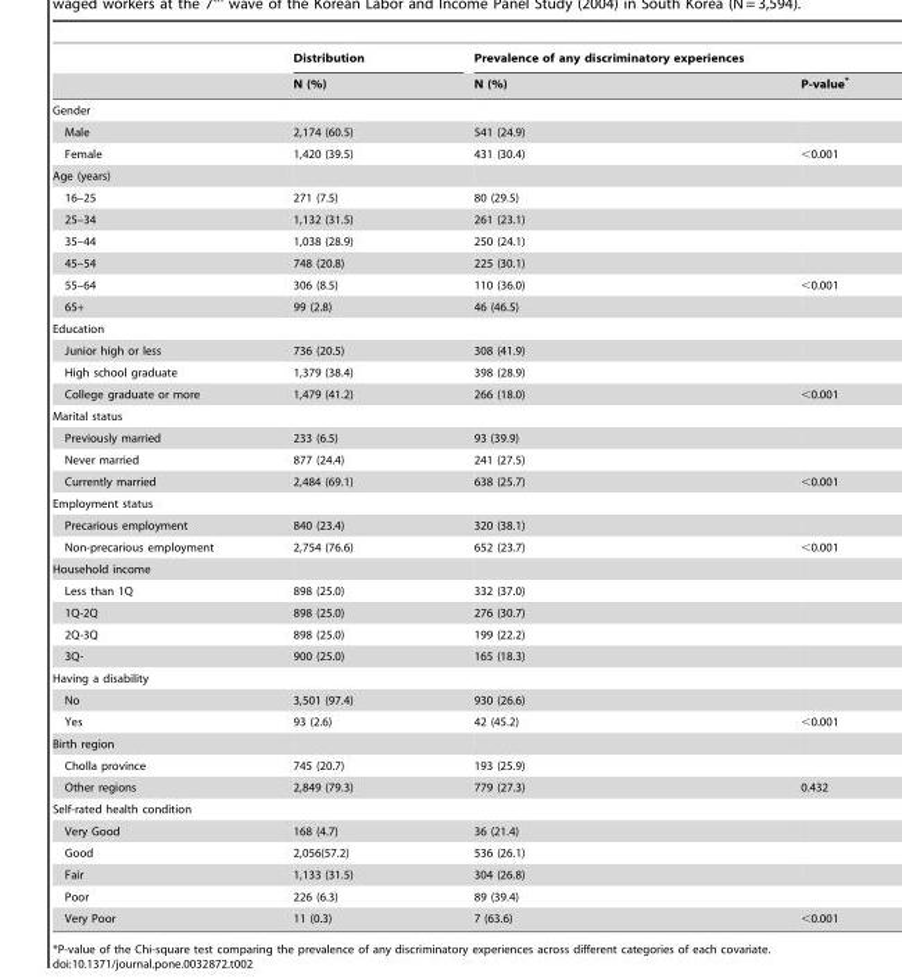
<table><thead><tr><td rowspan="2"></td><td rowspan="2">Distribution N (%)</td><td colspan="2">Prevalence of any discriminatory experiences</td></tr><tr><td>N (%)</td><td>P-value*</td></tr></thead><tbody><tr><td colspan="4">Gender</td></tr><tr><td>Male</td><td>2,174 (60.5)</td><td>541 (24.9)</td><td></td></tr><tr><td>Female</td><td>1,420 (39.5)</td><td>431 (30.4)</td><td>&lt;0.001</td></tr><tr><td colspan="4">Age (years)</td></tr><tr><td>16–25</td><td>271 (7.5)</td><td>80 (29.5)</td><td></td></tr><tr><td>25–34</td><td>1,132 (31.5)</td><td>261 (23.1)</td><td></td></tr><tr><td>35–44</td><td>1,038 (28.9)</td><td>250 (24.1)</td><td></td></tr><tr><td>45–54</td><td>748 (20.8)</td><td>225 (30.1)</td><td></td></tr><tr><td>55–64</td><td>306 (8.5)</td><td>110 (36.0)</td><td>&lt;0.001</td></tr><tr><td>65+</td><td>99 (2.8)</td><td>46 (46.5)</td><td></td></tr><tr><td colspan="4">Education</td></tr><tr><td>Junior high or less</td><td>736 (20.5)</td><td>308 (41.9)</td><td></td></tr><tr><td>High school graduate</td><td>1,379 (38.4)</td><td>398 (28.9)</td><td></td></tr><tr><td>College graduate or more</td><td>1,479 (41.2)</td><td>266 (18.0)</td><td>&lt;0.001</td></tr><tr><td colspan="4">Marital status</td></tr><tr><td>Previously married</td><td>233 (6.5)</td><td>93 (39.9)</td><td></td></tr><tr><td>Never married</td><td>877 (24.4)</td><td>241 (27.5)</td><td></td></tr><tr><td>Currently married</td><td>2,484 (69.1)</td><td>638 (25.7)</td><td>&lt;0.001</td></tr><tr><td colspan="4">Employment status</td></tr><tr><td>Precarious employment</td><td>840 (23.4)</td><td>320 (38.1)</td><td></td></tr><tr><td>Non-precarious employment</td><td>2,754 (76.6)</td><td>652 (23.7)</td><td>&lt;0.001</td></tr><tr><td colspan="4">Household income</td></tr><tr><td>Less than 1Q</td><td>898 (25.0)</td><td>332 (37.0)</td><td></td></tr><tr><td>1Q-2Q</td><td>898 (25.0)</td><td>276 (30.7)</td><td></td></tr><tr><td>2Q-3Q</td><td>898 (25.0)</td><td>199 (22.2)</td><td></td></tr><tr><td>3Q-</td><td>900 (25.0)</td><td>165 (18.3)</td><td></td></tr><tr><td colspan="4">Having a disability</td></tr><tr><td>No</td><td>3,501 (97.4)</td><td>930 (26.6)</td><td></td></tr><tr><td>Yes</td><td>93 (2.6)</td><td>42 (45.2)</td><td>&lt;0.001</td></tr><tr><td colspan="4">Birth region</td></tr><tr><td>Cholla province</td><td>745 (20.7)</td><td>193 (25.9)</td><td></td></tr><tr><td>Other regions</td><td>2,849 (79.3)</td><td>779 (27.3)</td><td>0.432</td></tr><tr><td colspan="4">Self-rated health condition</td></tr><tr><td>Very Good</td><td>168 (4.7)</td><td>36 (21.4)</td><td></td></tr><tr><td>Good</td><td>2,056(57.2)</td><td>536 (26.1)</td><td></td></tr><tr><td>Fair</td><td>1,133 (31.5)</td><td>304 (26.8)</td><td></td></tr><tr><td>Poor</td><td>226 (6.3)</td><td>89 (39.4)</td><td></td></tr><tr><td>Very Poor</td><td>11 (0.3)</td><td>7 (63.6)</td><td>&lt;0.001</td></tr></tbody></table>